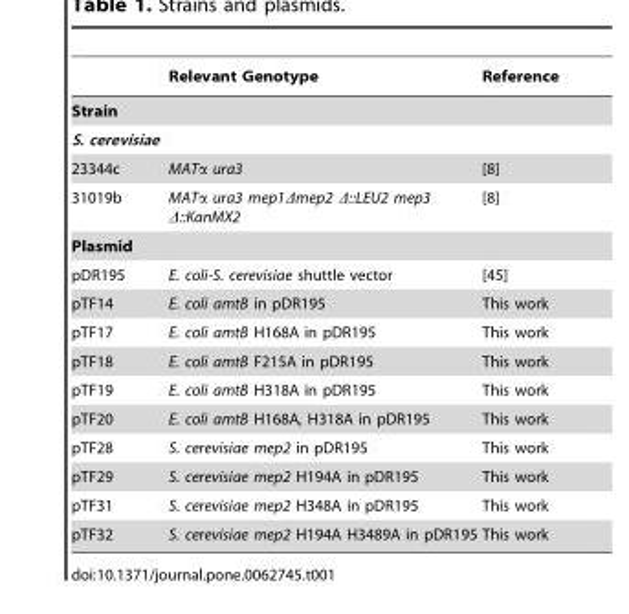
<table><thead><tr><td></td><td>Relevant Genotype</td><td>Reference</td></tr></thead><tbody><tr><td colspan="3">Strain</td></tr><tr><td colspan="3">S. cerevisiae</td></tr><tr><td>23344c</td><td>MATα ura3</td><td>[8]</td></tr><tr><td>31019b</td><td>MATα ura3 mep1Δmep2 Δ::LEU2 mep3 Δ::KanMX2</td><td>[8]</td></tr><tr><td colspan="3">Plasmid</td></tr><tr><td>pDR195</td><td>E. coli-S. cerevisiae shuttle vector</td><td>[45]</td></tr><tr><td>pTF14</td><td>E. coli amtB in pDR195</td><td>This work</td></tr><tr><td>pTF17</td><td>E. coli amtB H168A in pDR195</td><td>This work</td></tr><tr><td>pTF18</td><td>E. coli amtB F215A in pDR195</td><td>This work</td></tr><tr><td>pTF19</td><td>E. coli amtB H318A in pDR195</td><td>This work</td></tr><tr><td>pTF20</td><td>E. coli amtB H168A, H318A in pDR195</td><td>This work</td></tr><tr><td>pTF28</td><td>S. cerevisiae mep2 in pDR195</td><td>This work</td></tr><tr><td>pTF29</td><td>S. cerevisiae mep2 H194A in pDR195</td><td>This work</td></tr><tr><td>pTF31</td><td>S. cerevisiae mep2 H348A in pDR195</td><td>This work</td></tr><tr><td>pTF32</td><td>S. cerevisiae mep2 H194A H3489A in pDR195</td><td>This work</td></tr></tbody></table>